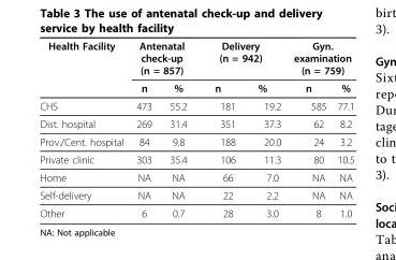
<table><thead><tr><td rowspan="2">Health Facility</td><td colspan="2">Antenatal check-up (n = 857)</td><td colspan="2">Delivery (n = 942)</td><td colspan="2">Gyn. examination (n = 759)</td></tr><tr><td>n</td><td>%</td><td>n</td><td>%</td><td>n</td><td>%</td></tr></thead><tbody><tr><td>CHS</td><td>473</td><td>55.2</td><td>181</td><td>19.2</td><td>585</td><td>77.1</td></tr><tr><td>Dist. hospital</td><td>269</td><td>31.4</td><td>351</td><td>37.3</td><td>62</td><td>8.2</td></tr><tr><td>Prov./Cent. hospital</td><td>84</td><td>9.8</td><td>188</td><td>20.0</td><td>24</td><td>3.2</td></tr><tr><td>Private clinic</td><td>303</td><td>35.4</td><td>106</td><td>11.3</td><td>80</td><td>10.5</td></tr><tr><td>Home</td><td>NA</td><td>NA</td><td>66</td><td>7.0</td><td>NA</td><td>NA</td></tr><tr><td>Self-delivery</td><td>NA</td><td>NA</td><td>22</td><td>2.2</td><td>NA</td><td>NA</td></tr><tr><td>Other</td><td>6</td><td>0.7</td><td>28</td><td>3.0</td><td>8</td><td>1.0</td></tr></tbody></table>